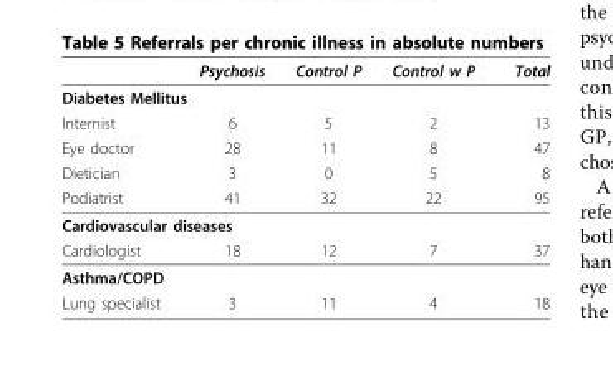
<table><thead><tr><td></td><td>Psychosis</td><td>Control P</td><td>Control w P</td><td>Total</td></tr></thead><tbody><tr><td colspan="5">Diabetes Mellitus</td></tr><tr><td>Internist</td><td>6</td><td>5</td><td>2</td><td>13</td></tr><tr><td>Eye doctor</td><td>28</td><td>11</td><td>8</td><td>47</td></tr><tr><td>Dietician</td><td>3</td><td>0</td><td>5</td><td>8</td></tr><tr><td>Podiatrist</td><td>41</td><td>32</td><td>22</td><td>95</td></tr><tr><td colspan="5">Cardiovascular diseases</td></tr><tr><td>Cardiologist</td><td>18</td><td>12</td><td>7</td><td>37</td></tr><tr><td colspan="5">Asthma/COPD</td></tr><tr><td>Lung specialist</td><td>3</td><td>11</td><td>4</td><td>18</td></tr></tbody></table>